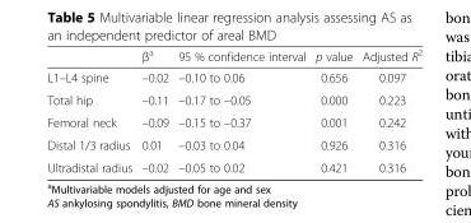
<table><thead><tr><td></td><td>β<sup>a</sup></td><td>95 % confidence interval</td><td>p value</td><td>Adjusted R<sup>2</sup></td></tr></thead><tbody><tr><td>L1–L4 spine</td><td>–0.02</td><td>–0.10 to 0.06</td><td>0.656</td><td>0.097</td></tr><tr><td>Total hip</td><td>–0.11</td><td>–0.17 to –0.05</td><td>0.000</td><td>0.223</td></tr><tr><td>Femoral neck</td><td>–0.09</td><td>–0.15 to –0.37</td><td>0.001</td><td>0.242</td></tr><tr><td>Distal 1/3 radius</td><td>0.01</td><td>–0.03 to 0.04</td><td>0.926</td><td>0.316</td></tr><tr><td>Ultradistal radius</td><td>–0.02</td><td>–0.05 to 0.02</td><td>0.421</td><td>0.316</td></tr></tbody></table>